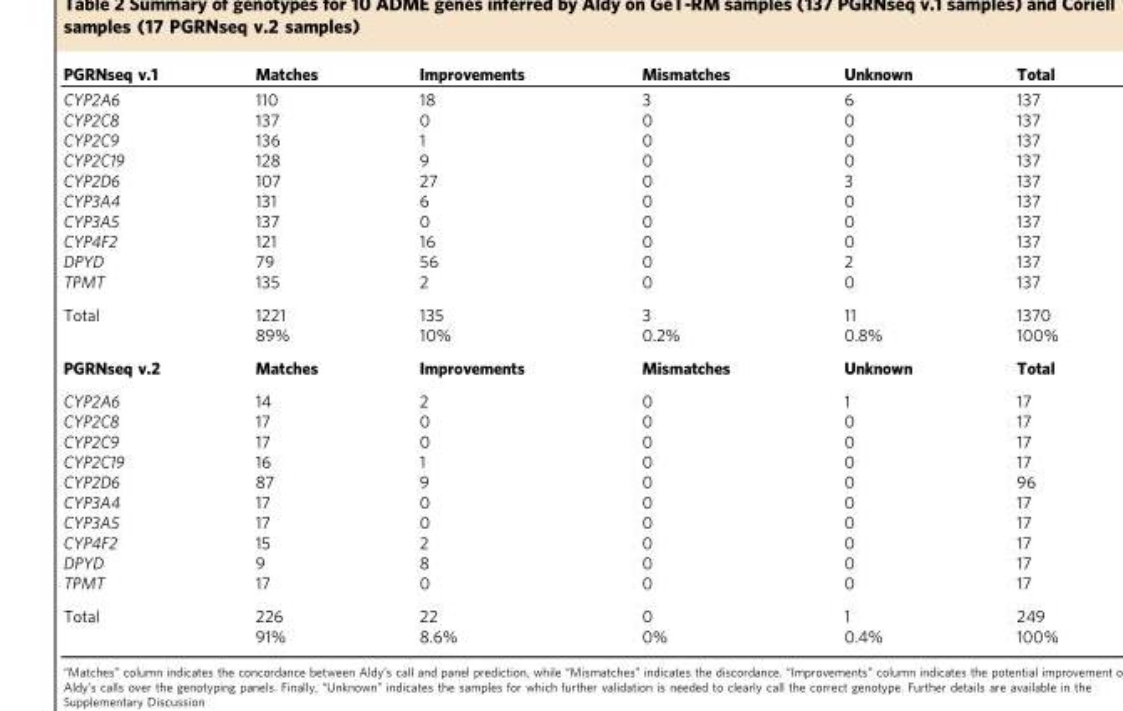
<table><thead><tr><td>PGRNseq v.1</td><td>Matches</td><td>Improvements</td><td>Mismatches</td><td>Unknown</td><td>Total</td></tr></thead><tbody><tr><td>CYP2A6</td><td>110</td><td>18</td><td>3</td><td>6</td><td>137</td></tr><tr><td>CYP2C8</td><td>137</td><td>0</td><td>0</td><td>0</td><td>137</td></tr><tr><td>CYP2C9</td><td>136</td><td>1</td><td>0</td><td>0</td><td>137</td></tr><tr><td>CYP2C19</td><td>128</td><td>9</td><td>0</td><td>0</td><td>137</td></tr><tr><td>CYP2D6</td><td>107</td><td>27</td><td>0</td><td>3</td><td>137</td></tr><tr><td>CYP3A4</td><td>131</td><td>6</td><td>0</td><td>0</td><td>137</td></tr><tr><td>CYP3A5</td><td>137</td><td>0</td><td>0</td><td>0</td><td>137</td></tr><tr><td>CYP4F2</td><td>121</td><td>16</td><td>0</td><td>0</td><td>137</td></tr><tr><td>DPYD</td><td>79</td><td>56</td><td>0</td><td>2</td><td>137</td></tr><tr><td>TPMT</td><td>135</td><td>2</td><td>0</td><td>0</td><td>137</td></tr><tr><td rowspan="2">Total</td><td>1221</td><td>135</td><td>3</td><td>11</td><td>1370</td></tr><tr><td>89%</td><td>10%</td><td>0.2%</td><td>0.8%</td><td>100%</td></tr><tr><td>PGRNseq v.2</td><td>Matches</td><td>Improvements</td><td>Mismatches</td><td>Unknown</td><td>Total</td></tr><tr><td>CYP2A6</td><td>14</td><td>2</td><td>0</td><td>1</td><td>17</td></tr><tr><td>CYP2C8</td><td>17</td><td>0</td><td>0</td><td>0</td><td>17</td></tr><tr><td>CYP2C9</td><td>17</td><td>0</td><td>0</td><td>0</td><td>17</td></tr><tr><td>CYP2C19</td><td>16</td><td>1</td><td>0</td><td>0</td><td>17</td></tr><tr><td>CYP2D6</td><td>87</td><td>9</td><td>0</td><td>0</td><td>96</td></tr><tr><td>CYP3A4</td><td>17</td><td>0</td><td>0</td><td>0</td><td>17</td></tr><tr><td>CYP3A5</td><td>17</td><td>0</td><td>0</td><td>0</td><td>17</td></tr><tr><td>CYP4F2</td><td>15</td><td>2</td><td>0</td><td>0</td><td>17</td></tr><tr><td>DPYD</td><td>9</td><td>8</td><td>0</td><td>0</td><td>17</td></tr><tr><td>TPMT</td><td>17</td><td>0</td><td>0</td><td>0</td><td>17</td></tr><tr><td rowspan="2">Total</td><td>226</td><td>22</td><td>0</td><td>1</td><td>249</td></tr><tr><td>91%</td><td>8.6%</td><td>0%</td><td>0.4%</td><td>100%</td></tr></tbody></table>